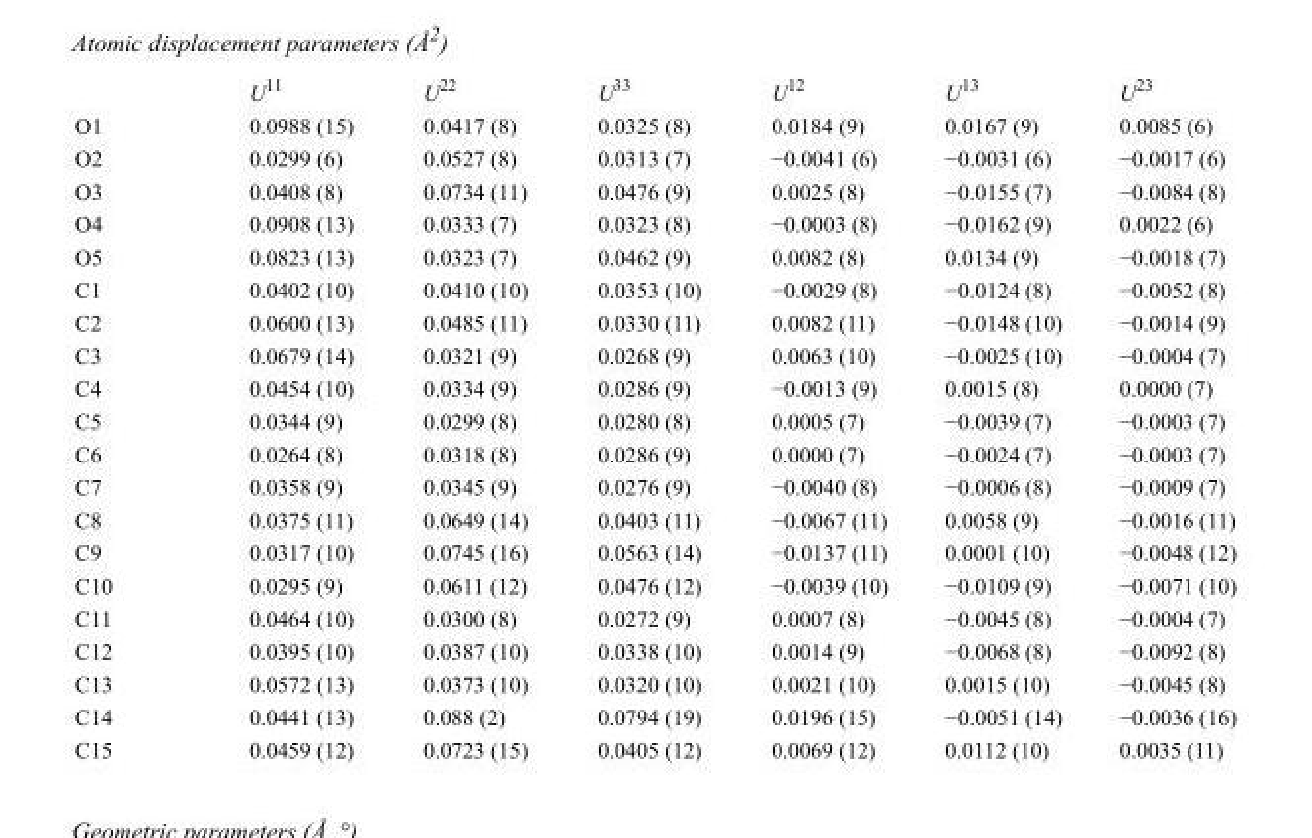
<table><thead><tr><td></td><td>U<sup>11</sup></td><td>U<sup>22</sup></td><td>U<sup>33</sup></td><td>U<sup>12</sup></td><td>U<sup>13</sup></td><td>U<sup>23</sup></td></tr></thead><tbody><tr><td>O1</td><td>0.0988 (15)</td><td>0.0417 (8)</td><td>0.0325 (8)</td><td>0.0184 (9)</td><td>0.0167 (9)</td><td>0.0085 (6)</td></tr><tr><td>O2</td><td>0.0299 (6)</td><td>0.0527 (8)</td><td>0.0313 (7)</td><td>−0.0041 (6)</td><td>−0.0031 (6)</td><td>−0.0017 (6)</td></tr><tr><td>O3</td><td>0.0408 (8)</td><td>0.0734 (11)</td><td>0.0476 (9)</td><td>0.0025 (8)</td><td>−0.0155 (7)</td><td>−0.0084 (8)</td></tr><tr><td>O4</td><td>0.0908 (13)</td><td>0.0333 (7)</td><td>0.0323 (8)</td><td>−0.0003 (8)</td><td>−0.0162 (9)</td><td>0.0022 (6)</td></tr><tr><td>O5</td><td>0.0823 (13)</td><td>0.0323 (7)</td><td>0.0462 (9)</td><td>0.0082 (8)</td><td>0.0134 (9)</td><td>−0.0018 (7)</td></tr><tr><td>C1</td><td>0.0402 (10)</td><td>0.0410 (10)</td><td>0.0353 (10)</td><td>−0.0029 (8)</td><td>−0.0124 (8)</td><td>−0.0052 (8)</td></tr><tr><td>C2</td><td>0.0600 (13)</td><td>0.0485 (11)</td><td>0.0330 (11)</td><td>0.0082 (11)</td><td>−0.0148 (10)</td><td>−0.0014 (9)</td></tr><tr><td>C3</td><td>0.0679 (14)</td><td>0.0321 (9)</td><td>0.0268 (9)</td><td>0.0063 (10)</td><td>−0.0025 (10)</td><td>−0.0004 (7)</td></tr><tr><td>C4</td><td>0.0454 (10)</td><td>0.0334 (9)</td><td>0.0286 (9)</td><td>−0.0013 (9)</td><td>0.0015 (8)</td><td>0.0000 (7)</td></tr><tr><td>C5</td><td>0.0344 (9)</td><td>0.0299 (8)</td><td>0.0280 (8)</td><td>0.0005 (7)</td><td>−0.0039 (7)</td><td>−0.0003 (7)</td></tr><tr><td>C6</td><td>0.0264 (8)</td><td>0.0318 (8)</td><td>0.0286 (9)</td><td>0.0000 (7)</td><td>−0.0024 (7)</td><td>−0.0003 (7)</td></tr><tr><td>C7</td><td>0.0358 (9)</td><td>0.0345 (9)</td><td>0.0276 (9)</td><td>−0.0040 (8)</td><td>−0.0006 (8)</td><td>−0.0009 (7)</td></tr><tr><td>C8</td><td>0.0375 (11)</td><td>0.0649 (14)</td><td>0.0403 (11)</td><td>−0.0067 (11)</td><td>0.0058 (9)</td><td>−0.0016 (11)</td></tr><tr><td>C9</td><td>0.0317 (10)</td><td>0.0745 (16)</td><td>0.0563 (14)</td><td>−0.0137 (11)</td><td>0.0001 (10)</td><td>−0.0048 (12)</td></tr><tr><td>C10</td><td>0.0295 (9)</td><td>0.0611 (12)</td><td>0.0476 (12)</td><td>−0.0039 (10)</td><td>−0.0109 (9)</td><td>−0.0071 (10)</td></tr><tr><td>C11</td><td>0.0464 (10)</td><td>0.0300 (8)</td><td>0.0272 (9)</td><td>0.0007 (8)</td><td>−0.0045 (8)</td><td>−0.0004 (7)</td></tr><tr><td>C12</td><td>0.0395 (10)</td><td>0.0387 (10)</td><td>0.0338 (10)</td><td>0.0014 (9)</td><td>−0.0068 (8)</td><td>−0.0092 (8)</td></tr><tr><td>C13</td><td>0.0572 (13)</td><td>0.0373 (10)</td><td>0.0320 (10)</td><td>0.0021 (10)</td><td>0.0015 (10)</td><td>−0.0045 (8)</td></tr><tr><td>C14</td><td>0.0441 (13)</td><td>0.088 (2)</td><td>0.0794 (19)</td><td>0.0196 (15)</td><td>−0.0051 (14)</td><td>−0.0036 (16)</td></tr><tr><td>C15</td><td>0.0459 (12)</td><td>0.0723 (15)</td><td>0.0405 (12)</td><td>0.0069 (12)</td><td>0.0112 (10)</td><td>0.0035 (11)</td></tr></tbody></table>